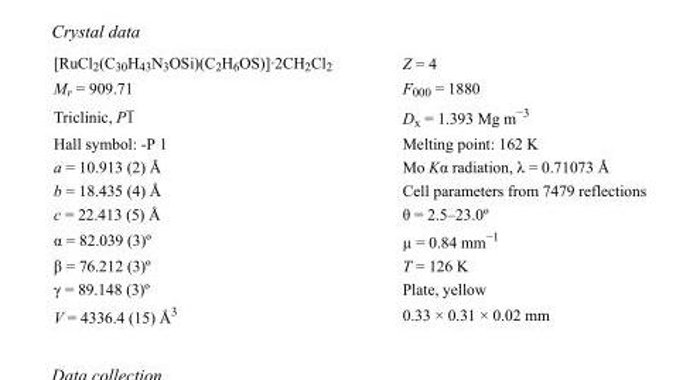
<table><tbody><tr><td>[RuCl<sub>2</sub>(C<sub>30</sub>H<sub>43</sub>N<sub>3</sub>OSi)(C<sub>2</sub>H<sub>6</sub>OS)]·2CH<sub>2</sub>Cl<sub>2</sub></td><td>Z = 4</td></tr><tr><td>M<sub>r</sub> = 909.71</td><td>F000 = 1880</td></tr><tr><td>Triclinic, P1</td><td>D<sub>x</sub> = 1.393 Mg m<sup>−3</sup></td></tr><tr><td>Hall symbol: -P 1</td><td>Melting point: 162 K</td></tr><tr><td>a = 10.913 (2) Å</td><td>Mo Kα radiation, λ = 0.71073 Å</td></tr><tr><td>b = 18.435 (4) Å</td><td>Cell parameters from 7479 reflections</td></tr><tr><td>c = 22.413 (5) Å</td><td>θ = 2.5–23.0º</td></tr><tr><td>α = 82.039 (3)º</td><td>µ = 0.84 mm<sup>−1</sup></td></tr><tr><td>β = 76.212 (3)º</td><td>T = 126 K</td></tr><tr><td>γ = 89.148 (3)º</td><td>Plate, yellow</td></tr><tr><td>V = 4336.4 (15) Å<sup>3</sup></td><td>0.33 × 0.31 × 0.02 mm</td></tr></tbody></table>